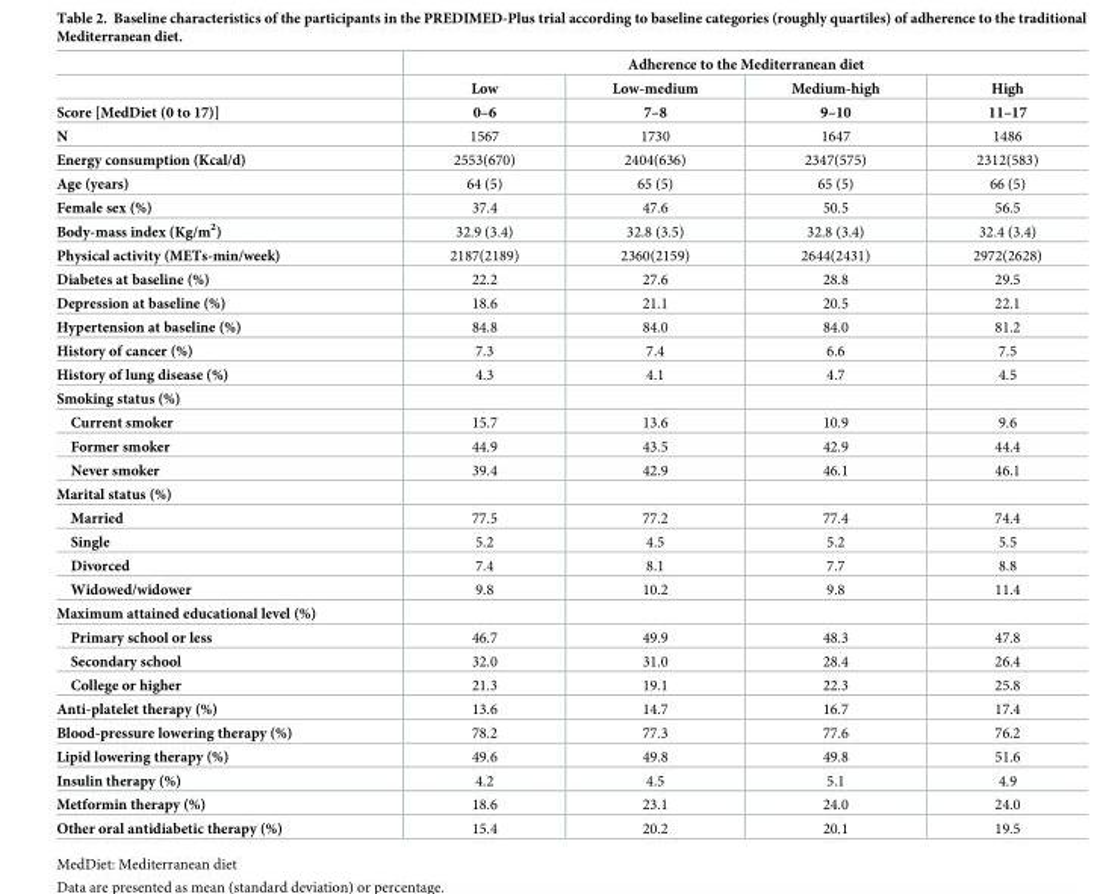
<table><thead><tr><td rowspan="3">Score [MedDiet (0 to 17)]</td><td colspan="4">Adherence to the Mediterranean diet</td></tr><tr><td rowspan="2">Low 0–6</td><td rowspan="2">Low-medium 7–8</td><td rowspan="2">Medium-high 9–10</td><td rowspan="2">High 11–17</td></tr><tr></tr></thead><tbody><tr><td>N</td><td>1567</td><td>1730</td><td>1647</td><td>1486</td></tr><tr><td>Energy consumption (Kcal/d)</td><td>2553(670)</td><td>2404(636)</td><td>2347(575)</td><td>2312(583)</td></tr><tr><td>Age (years)</td><td>64 (5)</td><td>65 (5)</td><td>65 (5)</td><td>66 (5)</td></tr><tr><td>Female sex (%)</td><td>37.4</td><td>47.6</td><td>50.5</td><td>56.5</td></tr><tr><td>Body-mass index (Kg/m<sup>2</sup>)</td><td>32.9 (3.4)</td><td>32.8 (3.5)</td><td>32.8 (3.4)</td><td>32.4 (3.4)</td></tr><tr><td>Physical activity (METs-min/week)</td><td>2187(2189)</td><td>2360(2159)</td><td>2644(2431)</td><td>2972(2628)</td></tr><tr><td>Diabetes at baseline (%)</td><td>22.2</td><td>27.6</td><td>28.8</td><td>29.5</td></tr><tr><td>Depression at baseline (%)</td><td>18.6</td><td>21.1</td><td>20.5</td><td>22.1</td></tr><tr><td>Hypertension at baseline (%)</td><td>84.8</td><td>84.0</td><td>84.0</td><td>81.2</td></tr><tr><td>History of cancer (%)</td><td>7.3</td><td>7.4</td><td>6.6</td><td>7.5</td></tr><tr><td>History of lung disease (%)</td><td>4.3</td><td>4.1</td><td>4.7</td><td>4.5</td></tr><tr><td colspan="5">Smoking status (%)</td></tr><tr><td>Current smoker</td><td>15.7</td><td>13.6</td><td>10.9</td><td>9.6</td></tr><tr><td>Former smoker</td><td>44.9</td><td>43.5</td><td>42.9</td><td>44.4</td></tr><tr><td>Never smoker</td><td>39.4</td><td>42.9</td><td>46.1</td><td>46.1</td></tr><tr><td colspan="5">Marital status (%)</td></tr><tr><td>Married</td><td>77.5</td><td>77.2</td><td>77.4</td><td>74.4</td></tr><tr><td>Single</td><td>5.2</td><td>4.5</td><td>5.2</td><td>5.5</td></tr><tr><td>Divorced</td><td>7.4</td><td>8.1</td><td>7.7</td><td>8.8</td></tr><tr><td>Widowed/widower</td><td>9.8</td><td>10.2</td><td>9.8</td><td>11.4</td></tr><tr><td colspan="5">Maximum attained educational level (%)</td></tr><tr><td>Primary school or less</td><td>46.7</td><td>49.9</td><td>48.3</td><td>47.8</td></tr><tr><td>Secondary school</td><td>32.0</td><td>31.0</td><td>28.4</td><td>26.4</td></tr><tr><td>College or higher</td><td>21.3</td><td>19.1</td><td>22.3</td><td>25.8</td></tr><tr><td>Anti-platelet therapy (%)</td><td>13.6</td><td>14.7</td><td>16.7</td><td>17.4</td></tr><tr><td>Blood-pressure lowering therapy (%)</td><td>78.2</td><td>77.3</td><td>77.6</td><td>76.2</td></tr><tr><td>Lipid lowering therapy (%)</td><td>49.6</td><td>49.8</td><td>49.8</td><td>51.6</td></tr><tr><td>Insulin therapy (%)</td><td>4.2</td><td>4.5</td><td>5.1</td><td>4.9</td></tr><tr><td>Metformin therapy (%)</td><td>18.6</td><td>23.1</td><td>24.0</td><td>24.0</td></tr><tr><td>Other oral antidiabetic therapy (%)</td><td>15.4</td><td>20.2</td><td>20.1</td><td>19.5</td></tr></tbody></table>